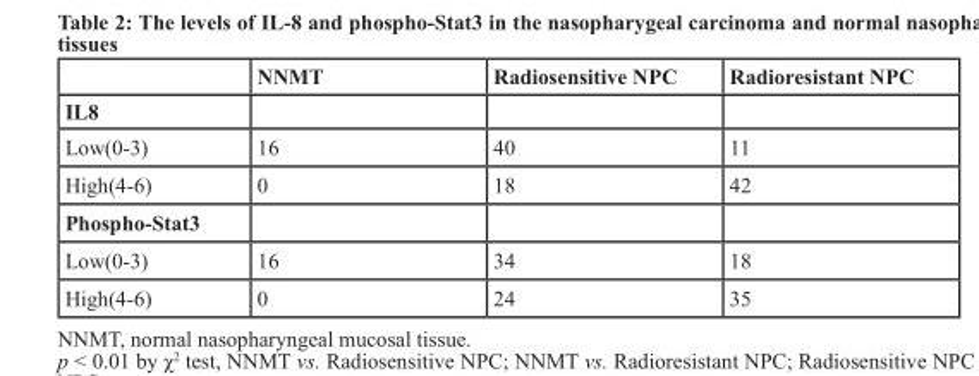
<table><thead><tr><td></td><td>NNMT</td><td>Radiosensitive NPC</td><td>Radioresistant NPC</td></tr></thead><tbody><tr><td colspan="4">IL8</td></tr><tr><td>Low(0-3)</td><td>16</td><td>40</td><td>11</td></tr><tr><td>High(4-6)</td><td>0</td><td>18</td><td>42</td></tr><tr><td colspan="4">Phospho-Stat3</td></tr><tr><td>Low(0-3)</td><td>16</td><td>34</td><td>18</td></tr><tr><td>High(4-6)</td><td>0</td><td>24</td><td>35</td></tr></tbody></table>